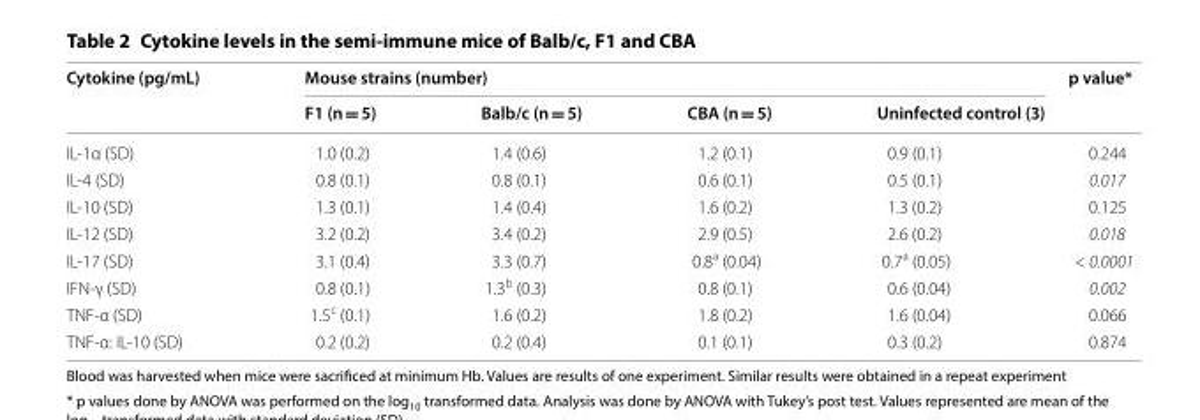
<table><thead><tr><td rowspan="2">Cytokine (pg/mL)</td><td colspan="4">Mouse strains (number)</td><td rowspan="2">p value*</td></tr><tr><td>F1 (n = 5)</td><td>Balb/c (n = 5)</td><td>CBA (n = 5)</td><td>Uninfected control (3)</td></tr></thead><tbody><tr><td>IL-1α (SD)</td><td>1.0 (0.2)</td><td>1.4 (0.6)</td><td>1.2 (0.1)</td><td>0.9 (0.1)</td><td>0.244</td></tr><tr><td>IL-4 (SD)</td><td>0.8 (0.1)</td><td>0.8 (0.1)</td><td>0.6 (0.1)</td><td>0.5 (0.1)</td><td>0.017</td></tr><tr><td>IL-10 (SD)</td><td>1.3 (0.1)</td><td>1.4 (0.4)</td><td>1.6 (0.2)</td><td>1.3 (0.2)</td><td>0.125</td></tr><tr><td>IL-12 (SD)</td><td>3.2 (0.2)</td><td>3.4 (0.2)</td><td>2.9 (0.5)</td><td>2.6 (0.2)</td><td>0.018</td></tr><tr><td>IL-17 (SD)</td><td>3.1 (0.4)</td><td>3.3 (0.7)</td><td>0.8<sup>a</sup> (0.04)</td><td>0.7<sup>a</sup> (0.05)</td><td>&lt; 0.0001</td></tr><tr><td>IFN-γ (SD)</td><td>0.8 (0.1)</td><td>1.3<sup>b</sup> (0.3)</td><td>0.8 (0.1)</td><td>0.6 (0.04)</td><td>0.002</td></tr><tr><td>TNF-α (SD)</td><td>1.5<sup>c</sup> (0.1)</td><td>1.6 (0.2)</td><td>1.8 (0.2)</td><td>1.6 (0.04)</td><td>0.066</td></tr><tr><td>TNF-α: IL-10 (SD)</td><td>0.2 (0.2)</td><td>0.2 (0.4)</td><td>0.1 (0.1)</td><td>0.3 (0.2)</td><td>0.874</td></tr></tbody></table>